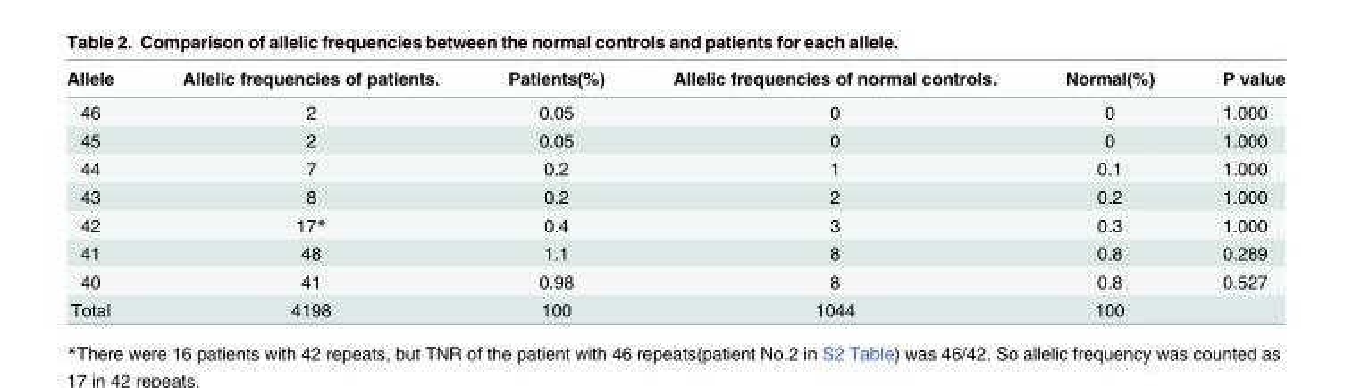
<table><thead><tr><td>Allele</td><td>Allelic frequencies of patients.</td><td>Patients(%)</td><td>Allelic frequencies of normal controls.</td><td>Normal(%)</td><td>P value</td></tr></thead><tbody><tr><td>46</td><td>2</td><td>0.05</td><td>0</td><td>0</td><td>1.000</td></tr><tr><td>45</td><td>2</td><td>0.05</td><td>0</td><td>0</td><td>1.000</td></tr><tr><td>44</td><td>7</td><td>0.2</td><td>1</td><td>0.1</td><td>1.000</td></tr><tr><td>43</td><td>8</td><td>0.2</td><td>2</td><td>0.2</td><td>1.000</td></tr><tr><td>42</td><td>17*</td><td>0.4</td><td>3</td><td>0.3</td><td>1.000</td></tr><tr><td>41</td><td>48</td><td>1.1</td><td>8</td><td>0.8</td><td>0.289</td></tr><tr><td>40</td><td>41</td><td>0.98</td><td>8</td><td>0.8</td><td>0.527</td></tr><tr><td>Total</td><td>4198</td><td>100</td><td>1044</td><td>100</td><td></td></tr></tbody></table>